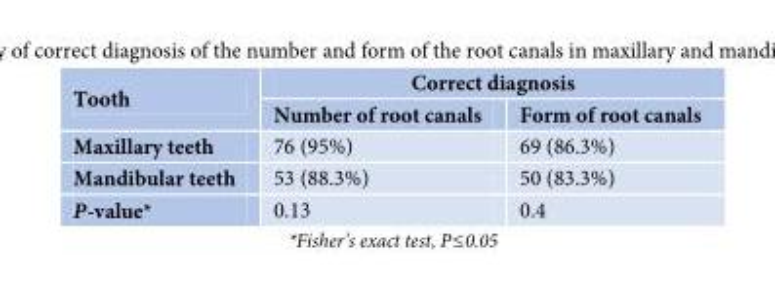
<table><thead><tr><td rowspan="2">Tooth</td><td colspan="2">Correct diagnosis</td></tr><tr><td>Number of root canals</td><td>Form of root canals</td></tr></thead><tbody><tr><td>Maxillary teeth</td><td>76 (95%)</td><td>69 (86.3%)</td></tr><tr><td>Mandibular teeth</td><td>53 (88.3%)</td><td>50 (83.3%)</td></tr><tr><td>P-value*</td><td>0.13</td><td>0.4</td></tr></tbody></table>